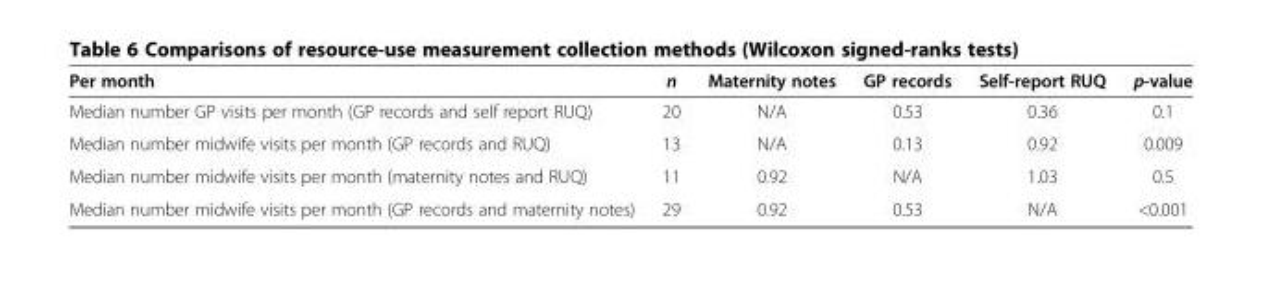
<table><thead><tr><td>Per month</td><td>n</td><td>Maternity notes</td><td>GP records</td><td>Self-report RUQ</td><td>p-value</td></tr></thead><tbody><tr><td>Median number GP visits per month (GP records and self report RUQ)</td><td>20</td><td>N/A</td><td>0.53</td><td>0.36</td><td>0.1</td></tr><tr><td>Median number midwife visits per month (GP records and RUQ)</td><td>13</td><td>N/A</td><td>0.13</td><td>0.92</td><td>0.009</td></tr><tr><td>Median number midwife visits per month (maternity notes and RUQ)</td><td>11</td><td>0.92</td><td>N/A</td><td>1.03</td><td>0.5</td></tr><tr><td>Median number midwife visits per month (GP records and maternity notes)</td><td>29</td><td>0.92</td><td>0.53</td><td>N/A</td><td>&lt;0.001</td></tr></tbody></table>